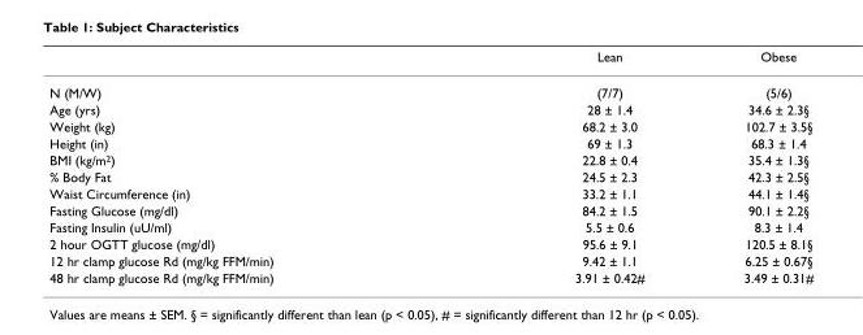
<table><thead><tr><td></td><td>Lean</td><td>Obese</td></tr></thead><tbody><tr><td>N (M/W)</td><td>(7/7)</td><td>(5/6)</td></tr><tr><td>Age (yrs)</td><td>28 ± 1.4</td><td>34.6 ± 2.3§</td></tr><tr><td>Weight (kg)</td><td>68.2 ± 3.0</td><td>102.7 ± 3.5§</td></tr><tr><td>Height (in)</td><td>69 ± 1.3</td><td>68.3 ± 1.4</td></tr><tr><td>BMI (kg/m<sup>2</sup>)</td><td>22.8 ± 0.4</td><td>35.4 ± 1.3§</td></tr><tr><td>% Body Fat</td><td>24.5 ± 2.3</td><td>42.3 ± 2.5§</td></tr><tr><td>Waist Circumference (in)</td><td>33.2 ± 1.1</td><td>44.1 ± 1.4§</td></tr><tr><td>Fasting Glucose (mg/dl)</td><td>84.2 ± 1.5</td><td>90.1 ± 2.2§</td></tr><tr><td>Fasting Insulin (uU/ml)</td><td>5.5 ± 0.6</td><td>8.3 ± 1.4</td></tr><tr><td>2 hour OGTT glucose (mg/dl)</td><td>95.6 ± 9.1</td><td>120.5 ± 8.1§</td></tr><tr><td>12 hr clamp glucose Rd (mg/kg FFM/min)</td><td>9.42 ± 1.1</td><td>6.25 ± 0.67§</td></tr><tr><td>48 hr clamp glucose Rd (mg/kg FFM/min)</td><td>3.91 ± 0.42#</td><td>3.49 ± 0.31#</td></tr></tbody></table>